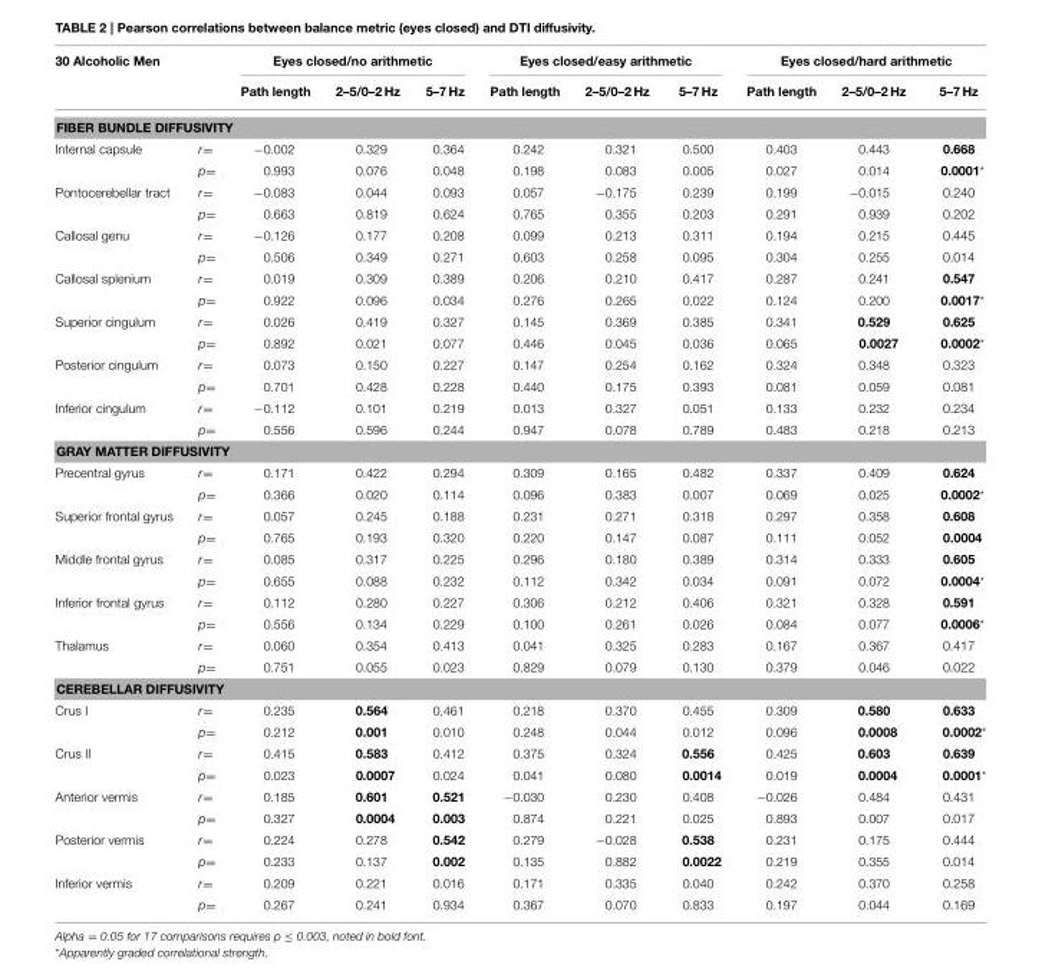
<table><thead><tr><td rowspan="2">30 Alcoholic Men</td><td rowspan="2"></td><td colspan="3">Eyes closed/no arithmetic</td><td colspan="3">Eyes closed/easy arithmetic</td><td colspan="3">Eyes closed/hard arithmetic</td></tr><tr><td>Path length</td><td>2–5/0–2 Hz</td><td>5–7 Hz</td><td>Path length</td><td>2–5/0–2 Hz</td><td>5–7 Hz</td><td>Path length</td><td>2–5/0–2 Hz</td><td>5–7 Hz</td></tr></thead><tbody><tr><td colspan="11">FIBER BUNDLE DIFFUSIVITY</td></tr><tr><td rowspan="2">Internal capsule</td><td>r=</td><td>−0.002</td><td>0.329</td><td>0.364</td><td>0.242</td><td>0.321</td><td>0.500</td><td>0.403</td><td>0.443</td><td>0.668</td></tr><tr><td>p=</td><td>0.993</td><td>0.076</td><td>0.048</td><td>0.198</td><td>0.083</td><td>0.005</td><td>0.027</td><td>0.014</td><td>0.0001*</td></tr><tr><td rowspan="2">Pontocerebellar tract</td><td>r=</td><td>−0.083</td><td>0.044</td><td>0.093</td><td>0.057</td><td>−0.175</td><td>0.239</td><td>0.199</td><td>−0.015</td><td>0.240</td></tr><tr><td>p=</td><td>0.663</td><td>0.819</td><td>0.624</td><td>0.765</td><td>0.355</td><td>0.203</td><td>0.291</td><td>0.939</td><td>0.202</td></tr><tr><td rowspan="2">Callosal genu</td><td>r=</td><td>−0.126</td><td>0.177</td><td>0.208</td><td>0.099</td><td>0.213</td><td>0.311</td><td>0.194</td><td>0.215</td><td>0.445</td></tr><tr><td>p=</td><td>0.506</td><td>0.349</td><td>0.271</td><td>0.603</td><td>0.258</td><td>0.095</td><td>0.304</td><td>0.255</td><td>0.014</td></tr><tr><td rowspan="2">Callosal splenium</td><td>r=</td><td>0.019</td><td>0.309</td><td>0.389</td><td>0.206</td><td>0.210</td><td>0.417</td><td>0.287</td><td>0.241</td><td>0.547</td></tr><tr><td>p=</td><td>0.922</td><td>0.096</td><td>0.034</td><td>0.276</td><td>0.265</td><td>0.022</td><td>0.124</td><td>0.200</td><td>0.0017*</td></tr><tr><td rowspan="2">Superior cingulum</td><td>r=</td><td>0.026</td><td>0.419</td><td>0.327</td><td>0.145</td><td>0.369</td><td>0.385</td><td>0.341</td><td>0.529</td><td>0.625</td></tr><tr><td>p=</td><td>0.892</td><td>0.021</td><td>0.077</td><td>0.446</td><td>0.045</td><td>0.036</td><td>0.065</td><td>0.0027</td><td>0.0002*</td></tr><tr><td rowspan="2">Posterior cingulum</td><td>r=</td><td>0.073</td><td>0.150</td><td>0.227</td><td>0.147</td><td>0.254</td><td>0.162</td><td>0.324</td><td>0.348</td><td>0.323</td></tr><tr><td>p=</td><td>0.701</td><td>0.428</td><td>0.228</td><td>0.440</td><td>0.175</td><td>0.393</td><td>0.081</td><td>0.059</td><td>0.081</td></tr><tr><td rowspan="2">Inferior cingulum</td><td>r=</td><td>−0.112</td><td>0.101</td><td>0.219</td><td>0.013</td><td>0.327</td><td>0.051</td><td>0.133</td><td>0.232</td><td>0.234</td></tr><tr><td>p=</td><td>0.556</td><td>0.596</td><td>0.244</td><td>0.947</td><td>0.078</td><td>0.789</td><td>0.483</td><td>0.218</td><td>0.213</td></tr><tr><td colspan="11">GRAY MATTER DIFFUSIVITY</td></tr><tr><td rowspan="2">Precentral gyrus</td><td>r=</td><td>0.171</td><td>0.422</td><td>0.294</td><td>0.309</td><td>0.165</td><td>0.482</td><td>0.337</td><td>0.409</td><td>0.624</td></tr><tr><td>p=</td><td>0.366</td><td>0.020</td><td>0.114</td><td>0.096</td><td>0.383</td><td>0.007</td><td>0.069</td><td>0.025</td><td>0.0002*</td></tr><tr><td rowspan="2">Superior frontal gyrus</td><td>r=</td><td>0.057</td><td>0.245</td><td>0.188</td><td>0.231</td><td>0.271</td><td>0.318</td><td>0.297</td><td>0.358</td><td>0.608</td></tr><tr><td>p=</td><td>0.765</td><td>0.193</td><td>0.320</td><td>0.220</td><td>0.147</td><td>0.087</td><td>0.111</td><td>0.052</td><td>0.0004</td></tr><tr><td rowspan="2">Middle frontal gyrus</td><td>r=</td><td>0.085</td><td>0.317</td><td>0.225</td><td>0.296</td><td>0.180</td><td>0.389</td><td>0.314</td><td>0.333</td><td>0.605</td></tr><tr><td>p=</td><td>0.655</td><td>0.088</td><td>0.232</td><td>0.112</td><td>0.342</td><td>0.034</td><td>0.091</td><td>0.072</td><td>0.0004*</td></tr><tr><td rowspan="2">Inferior frontal gyrus</td><td>r=</td><td>0.112</td><td>0.280</td><td>0.227</td><td>0.306</td><td>0.212</td><td>0.406</td><td>0.321</td><td>0.328</td><td>0.591</td></tr><tr><td>p=</td><td>0.556</td><td>0.134</td><td>0.229</td><td>0.100</td><td>0.261</td><td>0.026</td><td>0.084</td><td>0.077</td><td>0.0006*</td></tr><tr><td rowspan="2">Thalamus</td><td>r=</td><td>0.060</td><td>0.354</td><td>0.413</td><td>0.041</td><td>0.325</td><td>0.283</td><td>0.167</td><td>0.367</td><td>0.417</td></tr><tr><td>p=</td><td>0.751</td><td>0.055</td><td>0.023</td><td>0.829</td><td>0.079</td><td>0.130</td><td>0.379</td><td>0.046</td><td>0.022</td></tr><tr><td colspan="11">CEREBELLAR DIFFUSIVITY</td></tr><tr><td rowspan="2">Crus I</td><td>r=</td><td>0.235</td><td>0.564</td><td>0.461</td><td>0.218</td><td>0.370</td><td>0.455</td><td>0.309</td><td>0.580</td><td>0.633</td></tr><tr><td>p=</td><td>0.212</td><td>0.001</td><td>0.010</td><td>0.248</td><td>0.044</td><td>0.012</td><td>0.096</td><td>0.0008</td><td>0.0002*</td></tr><tr><td rowspan="2">Crus II</td><td>r=</td><td>0.415</td><td>0.583</td><td>0.412</td><td>0.375</td><td>0.324</td><td>0.556</td><td>0.425</td><td>0.603</td><td>0.639</td></tr><tr><td>p=</td><td>0.023</td><td>0.0007</td><td>0.024</td><td>0.041</td><td>0.080</td><td>0.0014</td><td>0.019</td><td>0.0004</td><td>0.0001*</td></tr><tr><td rowspan="2">Anterior vermis</td><td>r=</td><td>0.185</td><td>0.601</td><td>0.521</td><td>−0.030</td><td>0.230</td><td>0.408</td><td>−0.026</td><td>0.484</td><td>0.431</td></tr><tr><td>p=</td><td>0.327</td><td>0.0004</td><td>0.003</td><td>0.874</td><td>0.221</td><td>0.025</td><td>0.893</td><td>0.007</td><td>0.017</td></tr><tr><td rowspan="2">Posterior vermis</td><td>r=</td><td>0.224</td><td>0.278</td><td>0.542</td><td>0.279</td><td>−0.028</td><td>0.538</td><td>0.231</td><td>0.175</td><td>0.444</td></tr><tr><td>p=</td><td>0.233</td><td>0.137</td><td>0.002</td><td>0.135</td><td>0.882</td><td>0.0022</td><td>0.219</td><td>0.355</td><td>0.014</td></tr><tr><td rowspan="2">Inferior vermis</td><td>r=</td><td>0.209</td><td>0.221</td><td>0.016</td><td>0.171</td><td>0.335</td><td>0.040</td><td>0.242</td><td>0.370</td><td>0.258</td></tr><tr><td>p=</td><td>0.267</td><td>0.241</td><td>0.934</td><td>0.367</td><td>0.070</td><td>0.833</td><td>0.197</td><td>0.044</td><td>0.169</td></tr></tbody></table>